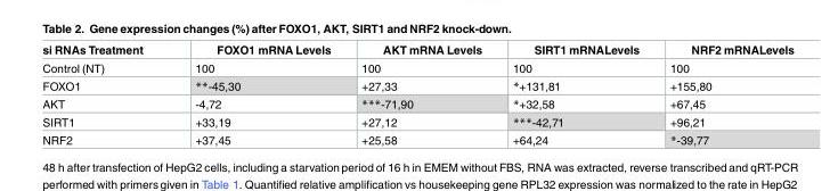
<table><thead><tr><td>si RNAs Treatment</td><td>FOXO1 mRNA Levels</td><td>AKT mRNA Levels</td><td>SIRT1 mRNALevels</td><td>NRF2 mRNALevels</td></tr></thead><tbody><tr><td>Control (NT)</td><td>100</td><td>100</td><td>100</td><td>100</td></tr><tr><td>FOXO1</td><td>**-45,30</td><td>+27,33</td><td>*+131,81</td><td>+155,80</td></tr><tr><td>AKT</td><td>-4,72</td><td>***-71,90</td><td>*+32,58</td><td>+67,45</td></tr><tr><td>SIRT1</td><td>+33,19</td><td>+27,12</td><td>***-42,71</td><td>+96,21</td></tr><tr><td>NRF2</td><td>+37,45</td><td>+25,58</td><td>+64,24</td><td>*-39,77</td></tr></tbody></table>